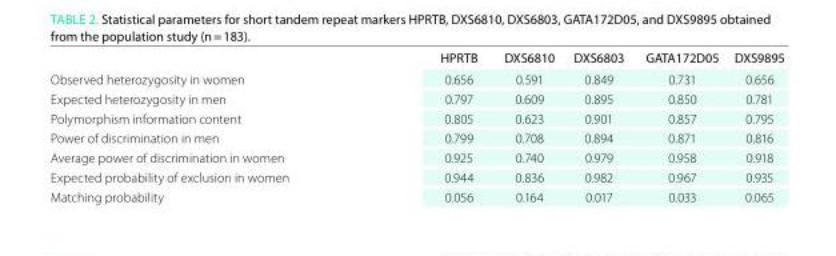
<table><thead><tr><td></td><td>hPrTB</td><td>DXs6810</td><td>DXs6803</td><td>GaTa172D05</td><td>DXs9895</td></tr></thead><tbody><tr><td>Observed heterozygosity in women</td><td>0.656</td><td>0.591</td><td>0.849</td><td>0.731</td><td>0.656</td></tr><tr><td>Expected heterozygosity in men</td><td>0.797</td><td>0.609</td><td>0.895</td><td>0.850</td><td>0.781</td></tr><tr><td>Polymorphism information content</td><td>0.805</td><td>0.623</td><td>0.901</td><td>0.857</td><td>0.795</td></tr><tr><td>Power of discrimination in men</td><td>0.799</td><td>0.708</td><td>0.894</td><td>0.871</td><td>0.816</td></tr><tr><td>Average power of discrimination in women</td><td>0.925</td><td>0.740</td><td>0.979</td><td>0.958</td><td>0.918</td></tr><tr><td>Expected probability of exclusion in women</td><td>0.944</td><td>0.836</td><td>0.982</td><td>0.967</td><td>0.935</td></tr><tr><td>Matching probability</td><td>0.056</td><td>0.164</td><td>0.017</td><td>0.033</td><td>0.065</td></tr></tbody></table>